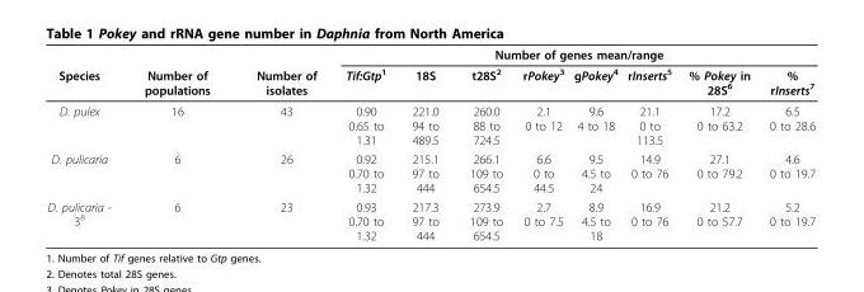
<table><thead><tr><td rowspan="2">Species</td><td rowspan="2">Number of populations</td><td rowspan="2">Number of isolates</td><td colspan="8">Number of genes mean/range</td></tr><tr><td>Tif:Gtp<sup>1</sup></td><td>18S</td><td>t28S<sup>2</sup></td><td>rPokey<sup>3</sup></td><td>gPokey<sup>4</sup></td><td>rInserts<sup>5</sup></td><td>% Pokey in 28S<sup>6</sup></td><td>% rInserts<sup>7</sup></td></tr></thead><tbody><tr><td>D. pulex</td><td>16</td><td>43</td><td>0.90 0.65 to 1.31</td><td>221.0 94 to 489.5</td><td>260.0 88 to 724.5</td><td>2.1 0 to 12</td><td>9.6 4 to 18</td><td>21.1 0 to 113.5</td><td>17.2 0 to 63.2</td><td>6.5 0 to 28.6</td></tr><tr><td>D. pulicaria</td><td>6</td><td>26</td><td>0.92 0.70 to 1.32</td><td>215.1 97 to 444</td><td>266.1 109 to 654.5</td><td>6.6 0 to 44.5</td><td>9.5 4.5 to 24</td><td>14.9 0 to 76</td><td>27.1 0 to 79.2</td><td>4.6 0 to 19.7</td></tr><tr><td>D. pulicaria - 3<sup>8</sup></td><td>6</td><td>23</td><td>0.93 0.70 to 1.32</td><td>217.3 97 to 444</td><td>273.9 109 to 654.5</td><td>2.7 0 to 7.5</td><td>8.9 4.5 to 18</td><td>16.9 0 to 76</td><td>21.2 0 to 57.7</td><td>5.2 0 to 19.7</td></tr></tbody></table>